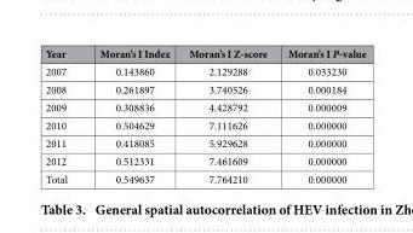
<table><thead><tr><td>Year</td><td>Moran’s I Index</td><td>Moran’s I Z-score</td><td>Moran’s I P-value</td></tr></thead><tbody><tr><td>2007</td><td>0.143860</td><td>2.129288</td><td>0.033230</td></tr><tr><td>2008</td><td>0.261897</td><td>3.740526</td><td>0.000184</td></tr><tr><td>2009</td><td>0.308836</td><td>4.428792</td><td>0.000009</td></tr><tr><td>2010</td><td>0.504629</td><td>7.111626</td><td>0.000000</td></tr><tr><td>2011</td><td>0.418085</td><td>5.929628</td><td>0.000000</td></tr><tr><td>2012</td><td>0.512331</td><td>7.461609</td><td>0.000000</td></tr><tr><td>Total</td><td>0.549637</td><td>7.764210</td><td>0.000000</td></tr></tbody></table>